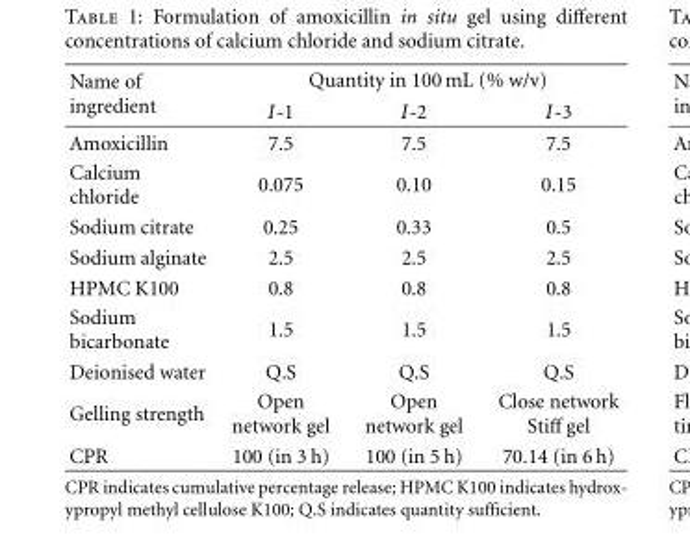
<table><thead><tr><td rowspan="2">Name of ingredient</td><td colspan="3">Quantity in 100 mL (% w/v)</td></tr><tr><td>I-1</td><td>I-2</td><td>I-3</td></tr></thead><tbody><tr><td>Amoxicillin</td><td>7.5</td><td>7.5</td><td>7.5</td></tr><tr><td>Calcium chloride</td><td>0.075</td><td>0.10</td><td>0.15</td></tr><tr><td>Sodium citrate</td><td>0.25</td><td>0.33</td><td>0.5</td></tr><tr><td>Sodium alginate</td><td>2.5</td><td>2.5</td><td>2.5</td></tr><tr><td>HPMC K100</td><td>0.8</td><td>0.8</td><td>0.8</td></tr><tr><td>Sodium bicarbonate</td><td>1.5</td><td>1.5</td><td>1.5</td></tr><tr><td>Deionised water</td><td>Q.S</td><td>Q.S</td><td>Q.S</td></tr><tr><td>Gelling strength</td><td>Open network gel</td><td>Open network gel</td><td>Close network Stiff gel</td></tr><tr><td>CPR</td><td>100 (in 3 h)</td><td>100 (in 5 h)</td><td>70.14 (in 6 h)</td></tr></tbody></table>